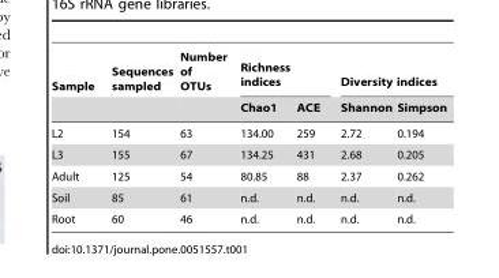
<table><thead><tr><td rowspan="2">Sample</td><td rowspan="2">Sequences sampled</td><td rowspan="2">Number of OTUs</td><td colspan="2">Richness indices</td><td colspan="2">Diversity indices</td></tr><tr><td>Chao1</td><td>ACE</td><td>Shannon</td><td>Simpson</td></tr></thead><tbody><tr><td>L2</td><td>154</td><td>63</td><td>134.00</td><td>259</td><td>2.72</td><td>0.194</td></tr><tr><td>L3</td><td>155</td><td>67</td><td>134.25</td><td>431</td><td>2.68</td><td>0.205</td></tr><tr><td>Adult</td><td>125</td><td>54</td><td>80.85</td><td>88</td><td>2.37</td><td>0.262</td></tr><tr><td>Soil</td><td>85</td><td>61</td><td>n.d.</td><td>n.d.</td><td>n.d.</td><td>n.d.</td></tr><tr><td>Root</td><td>60</td><td>46</td><td>n.d.</td><td>n.d.</td><td>n.d.</td><td>n.d.</td></tr></tbody></table>